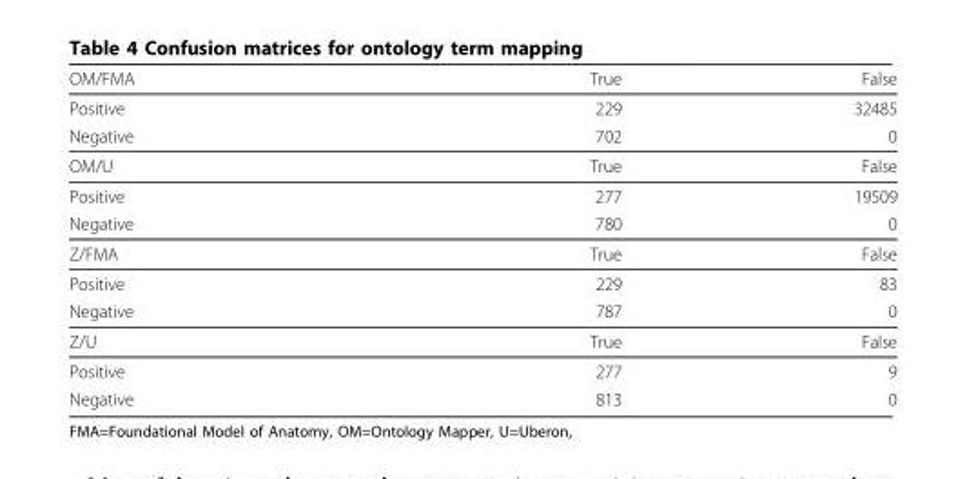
<table><thead><tr><td>OM/FMA</td><td>True</td><td>False</td></tr></thead><tbody><tr><td>Positive</td><td>229</td><td>32485</td></tr><tr><td>Negative</td><td>702</td><td>0</td></tr><tr><td>OM/U</td><td>True</td><td>False</td></tr><tr><td>Positive</td><td>277</td><td>19509</td></tr><tr><td>Negative</td><td>780</td><td>0</td></tr><tr><td>Z/FMA</td><td>True</td><td>False</td></tr><tr><td>Positive</td><td>229</td><td>83</td></tr><tr><td>Negative</td><td>787</td><td>0</td></tr><tr><td>Z/U</td><td>True</td><td>False</td></tr><tr><td>Positive</td><td>277</td><td>9</td></tr><tr><td>Negative</td><td>813</td><td>0</td></tr></tbody></table>